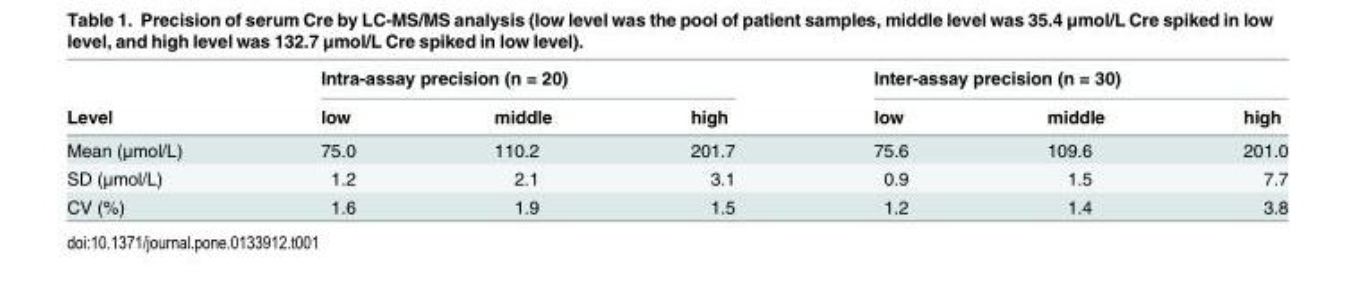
<table><thead><tr><td rowspan="2">Level</td><td colspan="3">Intra-assay precision (n = 20)</td><td colspan="3">Inter-assay precision (n = 30)</td></tr><tr><td>low</td><td>middle</td><td>high</td><td>low</td><td>middle</td><td>high</td></tr></thead><tbody><tr><td>Mean (μmol/L)</td><td>75.0</td><td>110.2</td><td>201.7</td><td>75.6</td><td>109.6</td><td>201.0</td></tr><tr><td>SD (μmol/L)</td><td>1.2</td><td>2.1</td><td>3.1</td><td>0.9</td><td>1.5</td><td>7.7</td></tr><tr><td>CV (%)</td><td>1.6</td><td>1.9</td><td>1.5</td><td>1.2</td><td>1.4</td><td>3.8</td></tr></tbody></table>